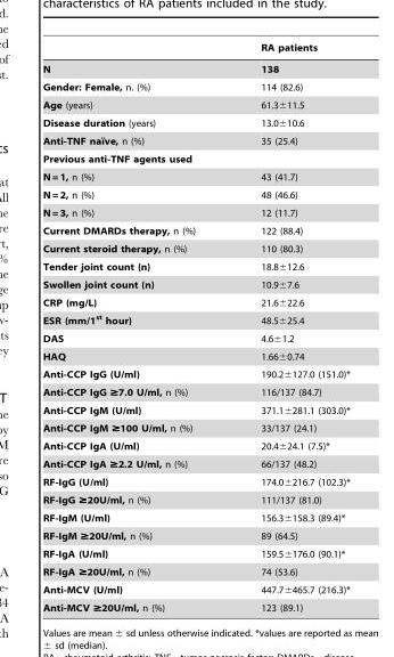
<table><thead><tr><td></td><td>RA patients</td></tr></thead><tbody><tr><td>N</td><td>138</td></tr><tr><td>Gender: Female, n. (%)</td><td>114 (82.6)</td></tr><tr><td>Age (years)</td><td>61.3±11.5</td></tr><tr><td>Disease duration (years)</td><td>13.0±10.6</td></tr><tr><td>Anti-TNF naı¨ve, n (%)</td><td>35 (25.4)</td></tr><tr><td colspan="2">Previous anti-TNF agents used</td></tr><tr><td>N = 1, n (%)</td><td>43 (41.7)</td></tr><tr><td>N = 2, n (%)</td><td>48 (46.6)</td></tr><tr><td>N = 3, n (%)</td><td>12 (11.7)</td></tr><tr><td>Current DMARDs therapy, n (%)</td><td>122 (88.4)</td></tr><tr><td>Current steroid therapy, n (%)</td><td>110 (80.3)</td></tr><tr><td>Tender joint count (n)</td><td>18.8±12.6</td></tr><tr><td>Swollen joint count (n)</td><td>10.9±7.6</td></tr><tr><td>CRP (mg/L)</td><td>21.6±22.6</td></tr><tr><td>ESR (mm/1<sup>st</sup> hour)</td><td>48.5±25.4</td></tr><tr><td>DAS</td><td>4.6±1.2</td></tr><tr><td>HAQ</td><td>1.66±0.74</td></tr><tr><td>Anti-CCP IgG (U/ml)</td><td>190.2±127.0 (151.0)*</td></tr><tr><td>Anti-CCP IgG ≥7.0 U/ml, n (%)</td><td>116/137 (84.7)</td></tr><tr><td>Anti-CCP IgM (U/ml)</td><td>371.1±281.1 (303.0)*</td></tr><tr><td>Anti-CCP IgM ≥100 U/ml, n (%)</td><td>33/137 (24.1)</td></tr><tr><td>Anti-CCP IgA (U/ml)</td><td>20.4±24.1 (7.5)*</td></tr><tr><td>Anti-CCP IgA ≥2.2 U/ml, n (%)</td><td>66/137 (48.2)</td></tr><tr><td>RF-IgG (U/ml)</td><td>174.0±216.7 (102.3)*</td></tr><tr><td>RF-IgG ≥20U/ml, n (%)</td><td>111/137 (81.0)</td></tr><tr><td>RF-IgM (U/ml)</td><td>156.3±158.3 (89.4)*</td></tr><tr><td>RF-IgM ≥20U/ml, n (%)</td><td>89 (64.5)</td></tr><tr><td>RF-IgA (U/ml)</td><td>159.5±176.0 (90.1)*</td></tr><tr><td>RF-IgA ≥20U/ml, n (%)</td><td>74 (53.6)</td></tr><tr><td>Anti-MCV (U/ml)</td><td>447.7±465.7 (216.3)*</td></tr><tr><td>Anti-MCV ≥20U/ml, n (%)</td><td>123 (89.1)</td></tr></tbody></table>